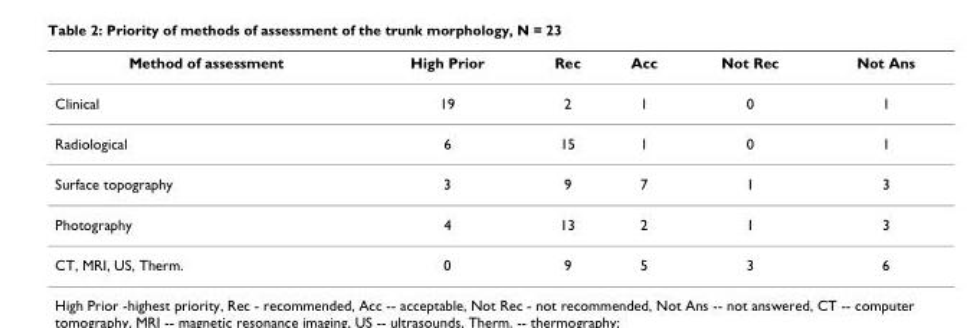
<table><thead><tr><td>Method of assessment</td><td>High Prior</td><td>Rec</td><td>Acc</td><td>Not Rec</td><td>Not Ans</td></tr></thead><tbody><tr><td>Clinical</td><td>19</td><td>2</td><td>1</td><td>0</td><td>1</td></tr><tr><td>Radiological</td><td>6</td><td>15</td><td>1</td><td>0</td><td>1</td></tr><tr><td>Surface topography</td><td>3</td><td>9</td><td>7</td><td>1</td><td>3</td></tr><tr><td>Photography</td><td>4</td><td>13</td><td>2</td><td>1</td><td>3</td></tr><tr><td>CT, MRI, US, Therm.</td><td>0</td><td>9</td><td>5</td><td>3</td><td>6</td></tr></tbody></table>